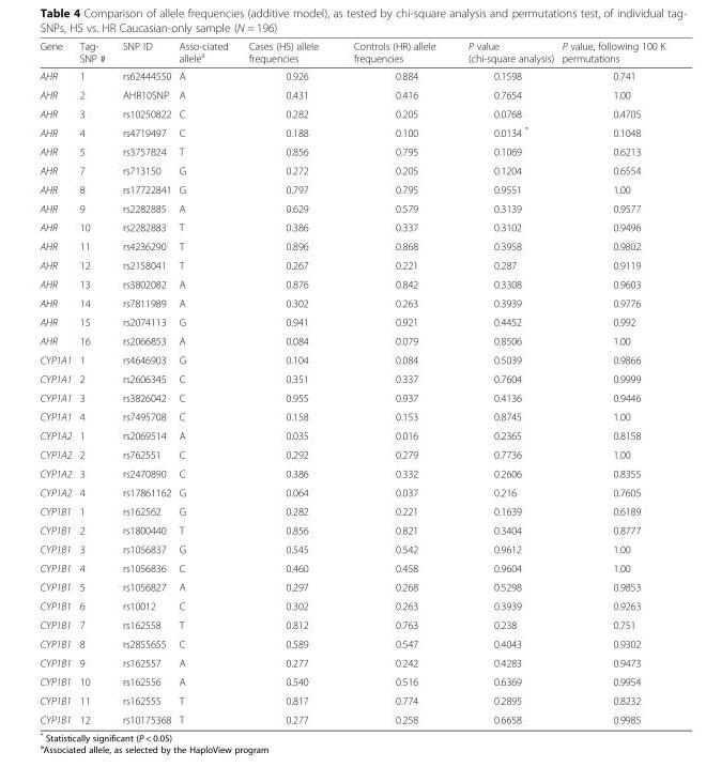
<table><thead><tr><td>Gene</td><td>Tag- SNP #</td><td>SNP ID</td><td>Asso-ciated allele<sup>a</sup></td><td>Cases (HS) allele frequencies</td><td>Controls (HR) allele frequencies</td><td>P value (chi-square analysis)</td><td>P value, following 100 K permutations</td></tr></thead><tbody><tr><td>AHR</td><td>1</td><td>rs62444550</td><td>A</td><td>0.926</td><td>0.884</td><td>0.1598</td><td>0.741</td></tr><tr><td>AHR</td><td>2</td><td>AHR10SNP</td><td>A</td><td>0.431</td><td>0.416</td><td>0.7654</td><td>1.00</td></tr><tr><td>AHR</td><td>3</td><td>rs10250822</td><td>C</td><td>0.282</td><td>0.205</td><td>0.0768</td><td>0.4705</td></tr><tr><td>AHR</td><td>4</td><td>rs4719497</td><td>C</td><td>0.188</td><td>0.100</td><td>0.0134 *</td><td>0.1048</td></tr><tr><td>AHR</td><td>5</td><td>rs3757824</td><td>T</td><td>0.856</td><td>0.795</td><td>0.1069</td><td>0.6213</td></tr><tr><td>AHR</td><td>7</td><td>rs713150</td><td>G</td><td>0.272</td><td>0.205</td><td>0.1204</td><td>0.6554</td></tr><tr><td>AHR</td><td>8</td><td>rs17722841</td><td>G</td><td>0.797</td><td>0.795</td><td>0.9551</td><td>1.00</td></tr><tr><td>AHR</td><td>9</td><td>rs2282885</td><td>A</td><td>0.629</td><td>0.579</td><td>0.3139</td><td>0.9577</td></tr><tr><td>AHR</td><td>10</td><td>rs2282883</td><td>T</td><td>0.386</td><td>0.337</td><td>0.3102</td><td>0.9496</td></tr><tr><td>AHR</td><td>11</td><td>rs4236290</td><td>T</td><td>0.896</td><td>0.868</td><td>0.3958</td><td>0.9802</td></tr><tr><td>AHR</td><td>12</td><td>rs2158041</td><td>T</td><td>0.267</td><td>0.221</td><td>0.287</td><td>0.9119</td></tr><tr><td>AHR</td><td>13</td><td>rs3802082</td><td>A</td><td>0.876</td><td>0.842</td><td>0.3308</td><td>0.9603</td></tr><tr><td>AHR</td><td>14</td><td>rs7811989</td><td>A</td><td>0.302</td><td>0.263</td><td>0.3939</td><td>0.9776</td></tr><tr><td>AHR</td><td>15</td><td>rs2074113</td><td>G</td><td>0.941</td><td>0.921</td><td>0.4452</td><td>0.992</td></tr><tr><td>AHR</td><td>16</td><td>rs2066853</td><td>A</td><td>0.084</td><td>0.079</td><td>0.8506</td><td>1.00</td></tr><tr><td>CYP1A1</td><td>1</td><td>rs4646903</td><td>G</td><td>0.104</td><td>0.084</td><td>0.5039</td><td>0.9866</td></tr><tr><td>CYP1A1</td><td>2</td><td>rs2606345</td><td>C</td><td>0.351</td><td>0.337</td><td>0.7604</td><td>0.9999</td></tr><tr><td>CYP1A1</td><td>3</td><td>rs3826042</td><td>C</td><td>0.955</td><td>0.937</td><td>0.4136</td><td>0.9446</td></tr><tr><td>CYP1A1</td><td>4</td><td>rs7495708</td><td>C</td><td>0.158</td><td>0.153</td><td>0.8745</td><td>1.00</td></tr><tr><td>CYP1A2</td><td>1</td><td>rs2069514</td><td>A</td><td>0.035</td><td>0.016</td><td>0.2365</td><td>0.8158</td></tr><tr><td>CYP1A2</td><td>2</td><td>rs762551</td><td>C</td><td>0.292</td><td>0.279</td><td>0.7736</td><td>1.00</td></tr><tr><td>CYP1A2</td><td>3</td><td>rs2470890</td><td>C</td><td>0.386</td><td>0.332</td><td>0.2606</td><td>0.8355</td></tr><tr><td>CYP1A2</td><td>4</td><td>rs17861162</td><td>G</td><td>0.064</td><td>0.037</td><td>0.216</td><td>0.7605</td></tr><tr><td>CYP1B1</td><td>1</td><td>rs162562</td><td>G</td><td>0.282</td><td>0.221</td><td>0.1639</td><td>0.6189</td></tr><tr><td>CYP1B1</td><td>2</td><td>rs1800440</td><td>T</td><td>0.856</td><td>0.821</td><td>0.3404</td><td>0.8777</td></tr><tr><td>CYP1B1</td><td>3</td><td>rs1056837</td><td>G</td><td>0.545</td><td>0.542</td><td>0.9612</td><td>1.00</td></tr><tr><td>CYP1B1</td><td>4</td><td>rs1056836</td><td>C</td><td>0.460</td><td>0.458</td><td>0.9604</td><td>1.00</td></tr><tr><td>CYP1B1</td><td>5</td><td>rs1056827</td><td>A</td><td>0.297</td><td>0.268</td><td>0.5298</td><td>0.9853</td></tr><tr><td>CYP1B1</td><td>6</td><td>rs10012</td><td>C</td><td>0.302</td><td>0.263</td><td>0.3939</td><td>0.9263</td></tr><tr><td>CYP1B1</td><td>7</td><td>rs162558</td><td>T</td><td>0.812</td><td>0.763</td><td>0.238</td><td>0.751</td></tr><tr><td>CYP1B1</td><td>8</td><td>rs2855655</td><td>C</td><td>0.589</td><td>0.547</td><td>0.4043</td><td>0.9302</td></tr><tr><td>CYP1B1</td><td>9</td><td>rs162557</td><td>A</td><td>0.277</td><td>0.242</td><td>0.4283</td><td>0.9473</td></tr><tr><td>CYP1B1</td><td>10</td><td>rs162556</td><td>A</td><td>0.540</td><td>0.516</td><td>0.6369</td><td>0.9954</td></tr><tr><td>CYP1B1</td><td>11</td><td>rs162555</td><td>T</td><td>0.817</td><td>0.774</td><td>0.2895</td><td>0.8232</td></tr><tr><td>CYP1B1</td><td>12</td><td>rs10175368</td><td>T</td><td>0.277</td><td>0.258</td><td>0.6658</td><td>0.9985</td></tr></tbody></table>